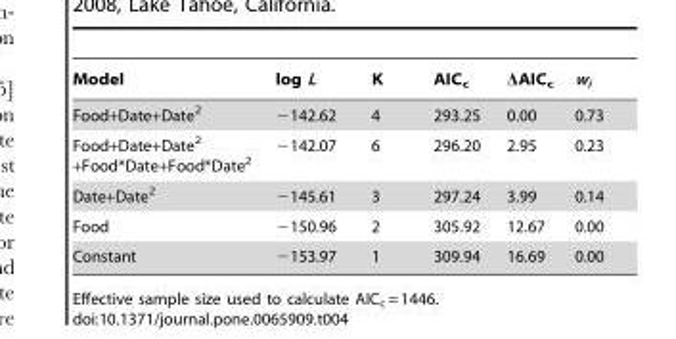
<table><thead><tr><td>Model</td><td>log L</td><td>K</td><td>AIC<sub>c</sub></td><td>ΔAIC<sub>c</sub></td><td>w<sub>i</sub></td></tr></thead><tbody><tr><td>Food+Date+Date<sup>2</sup></td><td>−142.62</td><td>4</td><td>293.25</td><td>0.00</td><td>0.73</td></tr><tr><td>Food+Date+Date<sup>2</sup> +Food*Date+Food*Date<sup>2</sup></td><td>−142.07</td><td>6</td><td>296.20</td><td>2.95</td><td>0.23</td></tr><tr><td>Date+Date<sup>2</sup></td><td>−145.61</td><td>3</td><td>297.24</td><td>3.99</td><td>0.14</td></tr><tr><td>Food</td><td>−150.96</td><td>2</td><td>305.92</td><td>12.67</td><td>0.00</td></tr><tr><td>Constant</td><td>−153.97</td><td>1</td><td>309.94</td><td>16.69</td><td>0.00</td></tr></tbody></table>